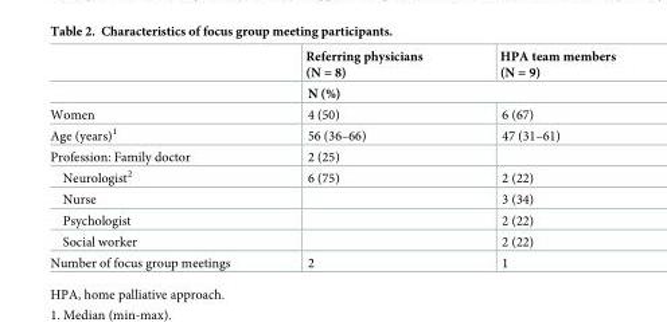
<table><thead><tr><td></td><td>Referring physicians (N = 8)</td><td>HPA team members (N = 9)</td></tr></thead><tbody><tr><td></td><td colspan="2">N (%)</td></tr><tr><td>Women</td><td>4 (50)</td><td>6 (67)</td></tr><tr><td>Age (years)<sup>1</sup></td><td>56 (36–66)</td><td>47 (31–61)</td></tr><tr><td>Profession: Family doctor</td><td>2 (25)</td><td></td></tr><tr><td>Neurologist<sup>2</sup></td><td>6 (75)</td><td>2 (22)</td></tr><tr><td>Nurse</td><td></td><td>3 (34)</td></tr><tr><td>Psychologist</td><td></td><td>2 (22)</td></tr><tr><td>Social worker</td><td></td><td>2 (22)</td></tr><tr><td>Number of focus group meetings</td><td>2</td><td>1</td></tr></tbody></table>